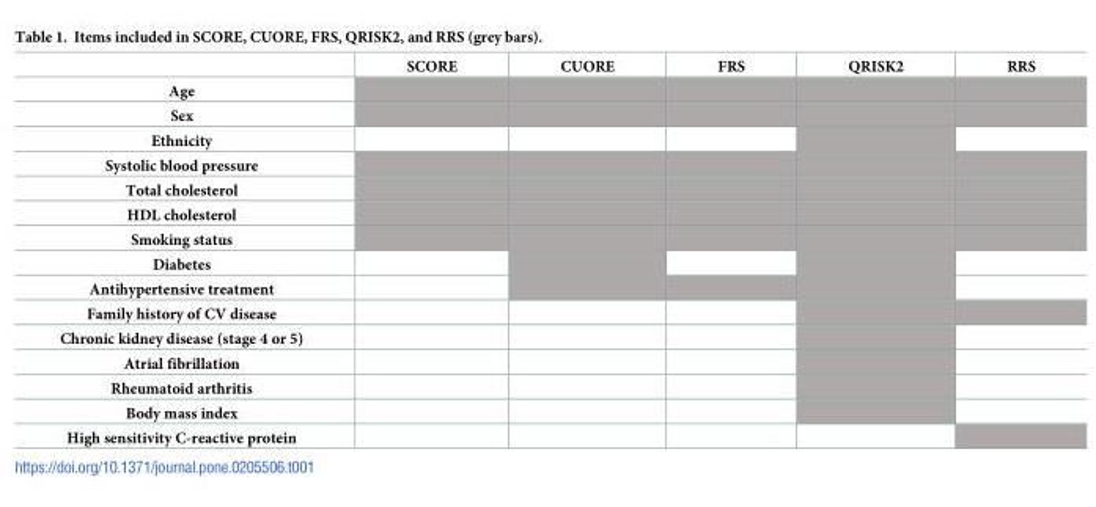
<table><thead><tr><td></td><td>SCORE</td><td>CUORE</td><td>FRS</td><td>QRISK2</td><td>RRS</td></tr></thead><tbody><tr><td colspan="6">Age</td></tr><tr><td colspan="6">Sex</td></tr><tr><td colspan="6">Ethnicity</td></tr><tr><td colspan="6">Systolic blood pressure</td></tr><tr><td colspan="6">Total cholesterol</td></tr><tr><td colspan="6">HDL cholesterol</td></tr><tr><td colspan="6">Smoking status</td></tr><tr><td colspan="6">Diabetes</td></tr><tr><td colspan="6">Antihypertensive treatment</td></tr><tr><td colspan="6">Family history of CV disease</td></tr><tr><td colspan="6">Chronic kidney disease (stage 4 or 5)</td></tr><tr><td colspan="6">Atrial fibrillation</td></tr><tr><td colspan="6">Rheumatoid arthritis</td></tr><tr><td colspan="6">Body mass index</td></tr><tr><td>High sensitivity C-reactive protein</td><td></td><td></td><td></td><td></td><td></td></tr></tbody></table>